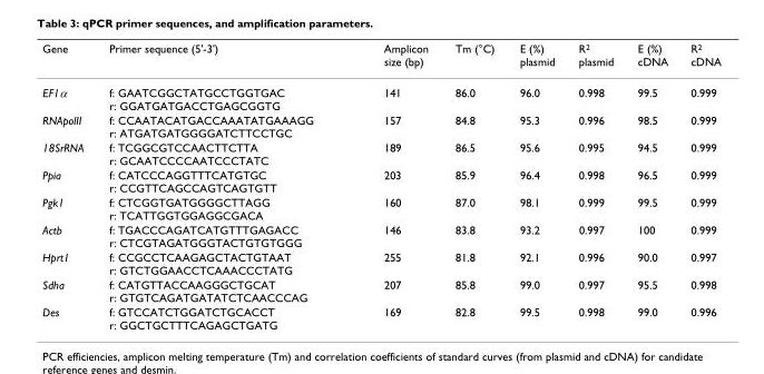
<table><thead><tr><td>Gene</td><td>Primer sequence (5&#x27;-3&#x27;)</td><td>Amplicon size (bp)</td><td>Tm (°C)</td><td>E (%) plasmid</td><td>R<sup>2</sup> plasmid</td><td>E (%) cDNA</td><td>R<sup>2</sup> cDNA</td></tr></thead><tbody><tr><td>EF1α</td><td>f: GAATCGGCTATGCCTGGTGAC r: GGATGATGACCTGAGCGGTG</td><td>141</td><td>86.0</td><td>96.0</td><td>0.998</td><td>99.5</td><td>0.999</td></tr><tr><td>RNApolII</td><td>f: CCAATACATGACCAAATATGAAAGG r: ATGATGATGGGGATCTTCCTGC</td><td>157</td><td>84.8</td><td>95.3</td><td>0.996</td><td>98.5</td><td>0.999</td></tr><tr><td>18SrRNA</td><td>f: TCGGCGTCCAACTTCTTA r: GCAATCCCCAATCCCTATC</td><td>189</td><td>86.5</td><td>95.6</td><td>0.995</td><td>94.5</td><td>0.999</td></tr><tr><td>Ppia</td><td>f: CATCCCAGGTTTCATGTGC r: CCGTTCAGCCAGTCAGTGTT</td><td>203</td><td>85.9</td><td>96.4</td><td>0.998</td><td>96.5</td><td>0.999</td></tr><tr><td>Pgk1</td><td>f: CTCGGTGATGGGGCTTAGG r: TCATTGGTGGAGGCGACA</td><td>160</td><td>87.0</td><td>98.1</td><td>0.999</td><td>99.5</td><td>0.999</td></tr><tr><td>Actb</td><td>f: TGACCCAGATCATGTTTGAGACC r: CTCGTAGATGGGTACTGTGTGGG</td><td>146</td><td>83.8</td><td>93.2</td><td>0.997</td><td>100</td><td>0.999</td></tr><tr><td>Hprt1</td><td>f: CCGCCTCAAGAGCTACTGTAAT r: GTCTGGAACCTCAAACCCTATG</td><td>255</td><td>81.8</td><td>92.1</td><td>0.996</td><td>90.0</td><td>0.997</td></tr><tr><td>Sdha</td><td>f: CATGTTACCAAGGGCTGCAT r: GTGTCAGATGATATCTCAACCCAG</td><td>207</td><td>85.8</td><td>99.0</td><td>0.997</td><td>95.5</td><td>0.998</td></tr><tr><td>Des</td><td>f: GTCCATCTGGATCTGCACCT r: GGCTGCTTTCAGAGCTGATG</td><td>169</td><td>82.8</td><td>99.5</td><td>0.998</td><td>99.0</td><td>0.996</td></tr></tbody></table>